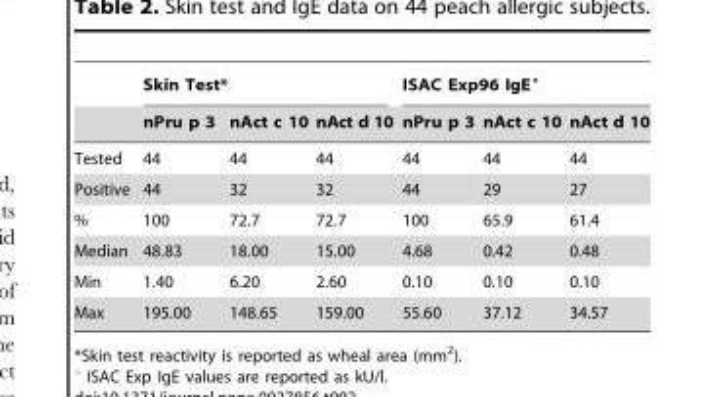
<table><thead><tr><td rowspan="2"></td><td colspan="3">Skin Test*</td><td colspan="3">ISAC Exp96 IgE°</td></tr><tr><td>nPru p 3</td><td>nAct c 10</td><td>nAct d 10</td><td>nPru p 3</td><td>nAct c 10</td><td>nAct d 10</td></tr></thead><tbody><tr><td>Tested</td><td>44</td><td>44</td><td>44</td><td>44</td><td>44</td><td>44</td></tr><tr><td>Positive</td><td>44</td><td>32</td><td>32</td><td>44</td><td>29</td><td>27</td></tr><tr><td>%</td><td>100</td><td>72.7</td><td>72.7</td><td>100</td><td>65.9</td><td>61.4</td></tr><tr><td>Median</td><td>48.83</td><td>18.00</td><td>15.00</td><td>4.68</td><td>0.42</td><td>0.48</td></tr><tr><td>Min</td><td>1.40</td><td>6.20</td><td>2.60</td><td>0.10</td><td>0.10</td><td>0.10</td></tr><tr><td>Max</td><td>195.00</td><td>148.65</td><td>159.00</td><td>55.60</td><td>37.12</td><td>34.57</td></tr></tbody></table>